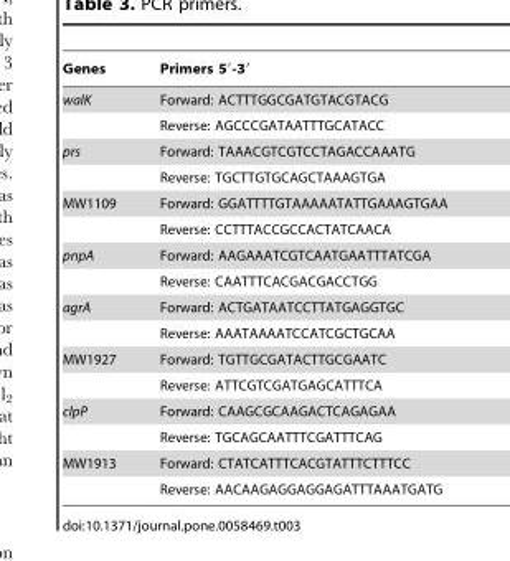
<table><thead><tr><td>Genes</td><td>Primers 5′-3′</td></tr></thead><tbody><tr><td rowspan="2">walK</td><td>Forward: ACTTTGGCGATGTACGTACG</td></tr><tr><td>Reverse: AGCCCGATAATTTGCATACC</td></tr><tr><td rowspan="2">prs</td><td>Forward: TAAACGTCGTCCTAGACCAAATG</td></tr><tr><td>Reverse: TGCTTGTGCAGCTAAAGTGA</td></tr><tr><td rowspan="2">MW1109</td><td>Forward: GGATTTTGTAAAAATATTGAAAGTGAA</td></tr><tr><td>Reverse: CCTTTACCGCCACTATCAACA</td></tr><tr><td rowspan="2">pnpA</td><td>Forward: AAGAAATCGTCAATGAATTTATCGA</td></tr><tr><td>Reverse: CAATTTCACGACGACCTGG</td></tr><tr><td rowspan="2">agrA</td><td>Forward: ACTGATAATCCTTATGAGGTGC</td></tr><tr><td>Reverse: AAATAAAATCCATCGCTGCAA</td></tr><tr><td rowspan="2">MW1927</td><td>Forward: TGTTGCGATACTTGCGAATC</td></tr><tr><td>Reverse: ATTCGTCGATGAGCATTTCA</td></tr><tr><td rowspan="2">clpP</td><td>Forward: CAAGCGCAAGACTCAGAGAA</td></tr><tr><td>Reverse: TGCAGCAATTTCGATTTCAG</td></tr><tr><td rowspan="2">MW1913</td><td>Forward: CTATCATTTCACGTATTTCTTTCC</td></tr><tr><td>Reverse: AACAAGAGGAGGAGATTTAAATGATG</td></tr></tbody></table>